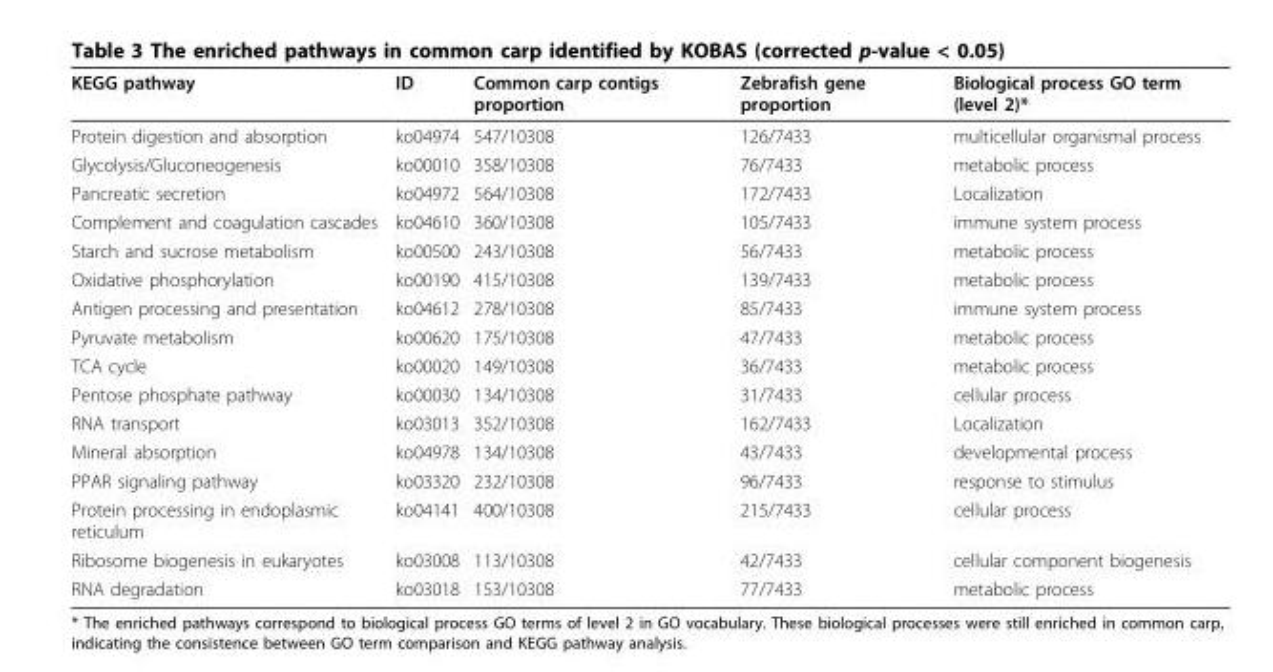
<table><thead><tr><td>KEGG pathway</td><td>ID</td><td>Common carp contigs proportion</td><td>Zebrafish gene proportion</td><td>Biological process GO term (level 2)*</td></tr></thead><tbody><tr><td>Protein digestion and absorption</td><td>ko04974</td><td>547/10308</td><td>126/7433</td><td>multicellular organismal process</td></tr><tr><td>Glycolysis/Gluconeogenesis</td><td>ko00010</td><td>358/10308</td><td>76/7433</td><td>metabolic process</td></tr><tr><td>Pancreatic secretion</td><td>ko04972</td><td>564/10308</td><td>172/7433</td><td>Localization</td></tr><tr><td>Complement and coagulation cascades</td><td>ko04610</td><td>360/10308</td><td>105/7433</td><td>immune system process</td></tr><tr><td>Starch and sucrose metabolism</td><td>ko00500</td><td>243/10308</td><td>56/7433</td><td>metabolic process</td></tr><tr><td>Oxidative phosphorylation</td><td>ko00190</td><td>415/10308</td><td>139/7433</td><td>metabolic process</td></tr><tr><td>Antigen processing and presentation</td><td>ko04612</td><td>278/10308</td><td>85/7433</td><td>immune system process</td></tr><tr><td>Pyruvate metabolism</td><td>ko00620</td><td>175/10308</td><td>47/7433</td><td>metabolic process</td></tr><tr><td>TCA cycle</td><td>ko00020</td><td>149/10308</td><td>36/7433</td><td>metabolic process</td></tr><tr><td>Pentose phosphate pathway</td><td>ko00030</td><td>134/10308</td><td>31/7433</td><td>cellular process</td></tr><tr><td>RNA transport</td><td>ko03013</td><td>352/10308</td><td>162/7433</td><td>Localization</td></tr><tr><td>Mineral absorption</td><td>ko04978</td><td>134/10308</td><td>43/7433</td><td>developmental process</td></tr><tr><td>PPAR signaling pathway</td><td>ko03320</td><td>232/10308</td><td>96/7433</td><td>response to stimulus</td></tr><tr><td>Protein processing in endoplasmic reticulum</td><td>ko04141</td><td>400/10308</td><td>215/7433</td><td>cellular process</td></tr><tr><td>Ribosome biogenesis in eukaryotes</td><td>ko03008</td><td>113/10308</td><td>42/7433</td><td>cellular component biogenesis</td></tr><tr><td>RNA degradation</td><td>ko03018</td><td>153/10308</td><td>77/7433</td><td>metabolic process</td></tr></tbody></table>